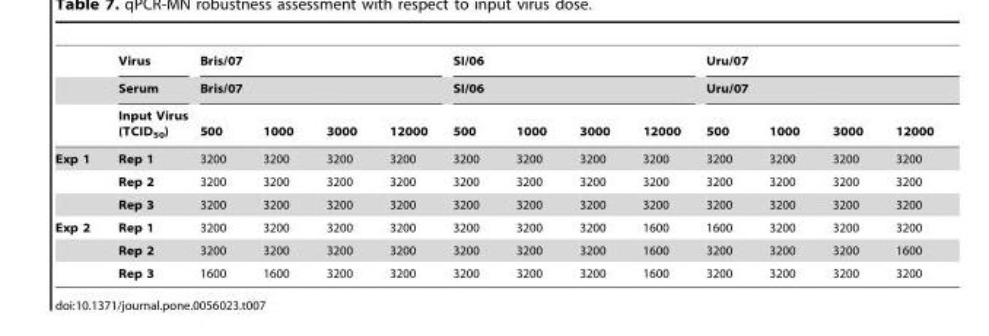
<table><thead><tr><td rowspan="3"></td><td rowspan="3">Virus Serum Input Virus (TCID<sub>50</sub>)</td><td rowspan="2" colspan="4">Bris/07 Bris/07</td><td rowspan="2" colspan="4">SI/06 SI/06</td><td rowspan="2" colspan="4">Uru/07 Uru/07</td></tr><tr></tr><tr><td>500</td><td>1000</td><td>3000</td><td>12000</td><td>500</td><td>1000</td><td>3000</td><td>12000</td><td>500</td><td>1000</td><td>3000</td><td>12000</td></tr></thead><tbody><tr><td rowspan="3">Exp 1</td><td>Rep 1</td><td>3200</td><td>3200</td><td>3200</td><td>3200</td><td>3200</td><td>3200</td><td>3200</td><td>3200</td><td>3200</td><td>3200</td><td>3200</td><td>3200</td></tr><tr><td>Rep 2</td><td>3200</td><td>3200</td><td>3200</td><td>3200</td><td>3200</td><td>3200</td><td>3200</td><td>3200</td><td>3200</td><td>3200</td><td>3200</td><td>3200</td></tr><tr><td>Rep 3</td><td>3200</td><td>3200</td><td>3200</td><td>3200</td><td>3200</td><td>3200</td><td>3200</td><td>3200</td><td>3200</td><td>3200</td><td>3200</td><td>3200</td></tr><tr><td rowspan="3">Exp 2</td><td>Rep 1</td><td>3200</td><td>3200</td><td>3200</td><td>3200</td><td>3200</td><td>3200</td><td>3200</td><td>1600</td><td>1600</td><td>3200</td><td>3200</td><td>3200</td></tr><tr><td>Rep 2</td><td>3200</td><td>3200</td><td>3200</td><td>3200</td><td>3200</td><td>3200</td><td>3200</td><td>1600</td><td>3200</td><td>3200</td><td>3200</td><td>1600</td></tr><tr><td>Rep 3</td><td>1600</td><td>1600</td><td>3200</td><td>3200</td><td>3200</td><td>3200</td><td>3200</td><td>1600</td><td>3200</td><td>3200</td><td>3200</td><td>3200</td></tr></tbody></table>